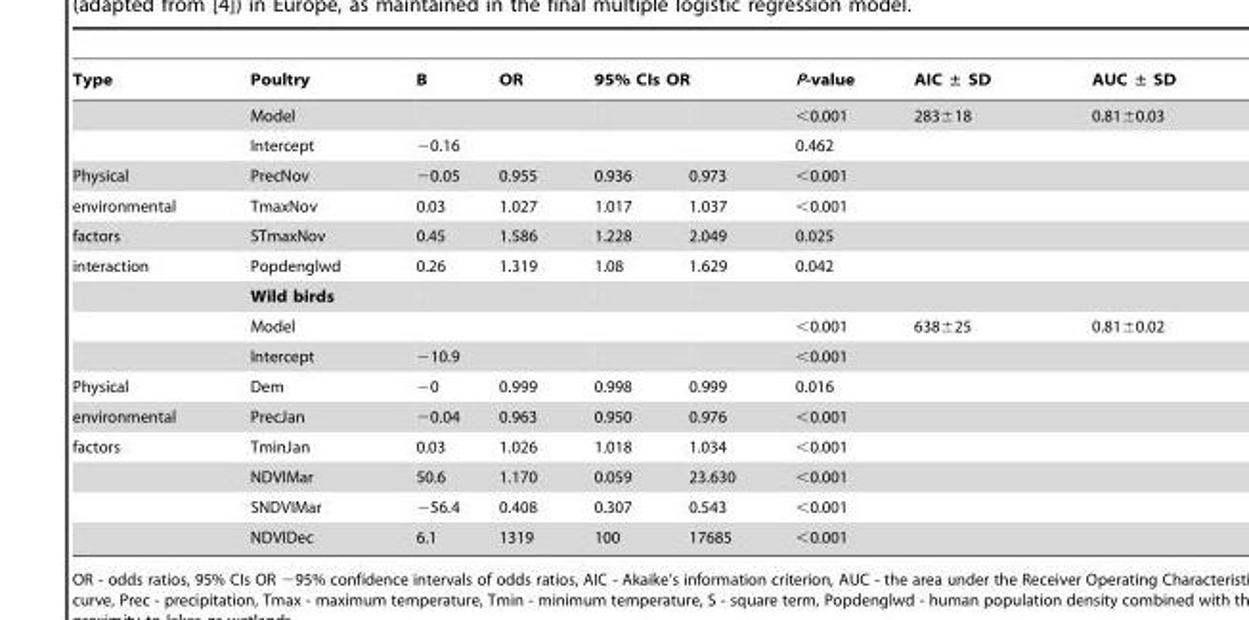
<table><thead><tr><td rowspan="2">Type</td><td rowspan="2">Poultry Model</td><td rowspan="2">B</td><td rowspan="2">OR</td><td colspan="2">95% CIs OR</td><td rowspan="2">P-value &lt;0.001</td><td rowspan="2">AIC ± SD 283±18</td><td rowspan="2">AUC ± SD 0.81±0.03</td></tr><tr><td></td><td></td></tr></thead><tbody><tr><td></td><td>Intercept</td><td>−0.16</td><td></td><td></td><td></td><td>0.462</td><td></td><td></td></tr><tr><td>Physical</td><td>PrecNov</td><td>−0.05</td><td>0.955</td><td>0.936</td><td>0.973</td><td>&lt;0.001</td><td></td><td></td></tr><tr><td>environmental</td><td>TmaxNov</td><td>0.03</td><td>1.027</td><td>1.017</td><td>1.037</td><td>&lt;0.001</td><td></td><td></td></tr><tr><td>factors</td><td>STmaxNov</td><td>0.45</td><td>1.586</td><td>1.228</td><td>2.049</td><td>0.025</td><td></td><td></td></tr><tr><td rowspan="4">interaction</td><td>Popdenglwd</td><td>0.26</td><td>1.319</td><td>1.08</td><td>1.629</td><td>0.042</td><td></td><td></td></tr><tr><td>Wild birds</td><td></td><td></td><td></td><td></td><td></td><td></td><td></td></tr><tr><td>Model</td><td></td><td></td><td></td><td></td><td>&lt;0.001</td><td>638±25</td><td>0.81±0.02</td></tr><tr><td>Intercept</td><td>−10.9</td><td></td><td></td><td></td><td>&lt;0.001</td><td></td><td></td></tr><tr><td>Physical</td><td>Dem</td><td>−0</td><td>0.999</td><td>0.998</td><td>0.999</td><td>0.016</td><td></td><td></td></tr><tr><td>environmental</td><td>PrecJan</td><td>−0.04</td><td>0.963</td><td>0.950</td><td>0.976</td><td>&lt;0.001</td><td></td><td></td></tr><tr><td rowspan="4">factors</td><td>TminJan</td><td>0.03</td><td>1.026</td><td>1.018</td><td>1.034</td><td>&lt;0.001</td><td></td><td></td></tr><tr><td>NDVIMar</td><td>50.6</td><td>1.170</td><td>0.059</td><td>23.630</td><td>&lt;0.001</td><td></td><td></td></tr><tr><td>SNDVIMar</td><td>−56.4</td><td>0.408</td><td>0.307</td><td>0.543</td><td>&lt;0.001</td><td></td><td></td></tr><tr><td>NDVIDec</td><td>6.1</td><td>1319</td><td>100</td><td>17685</td><td>&lt;0.001</td><td></td><td></td></tr></tbody></table>